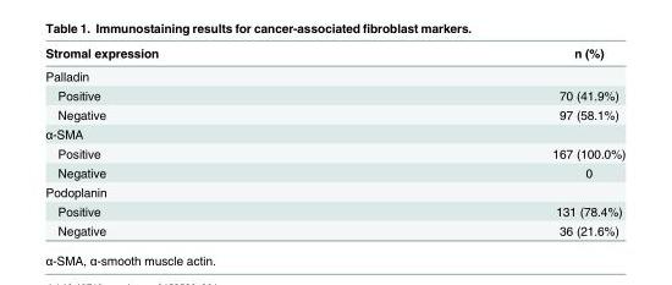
<table><thead><tr><td>Stromal expression</td><td>n (%)</td></tr></thead><tbody><tr><td colspan="2">Palladin</td></tr><tr><td>Positive</td><td>70 (41.9%)</td></tr><tr><td>Negative</td><td>97 (58.1%)</td></tr><tr><td colspan="2">α-SMA</td></tr><tr><td>Positive</td><td>167 (100.0%)</td></tr><tr><td>Negative</td><td>0</td></tr><tr><td colspan="2">Podoplanin</td></tr><tr><td>Positive</td><td>131 (78.4%)</td></tr><tr><td>Negative</td><td>36 (21.6%)</td></tr></tbody></table>